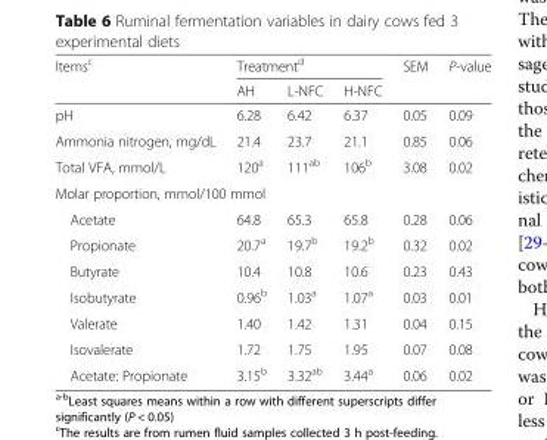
<table><thead><tr><td rowspan="2">Items<sup>c</sup></td><td colspan="3">Treatment<sup>d</sup></td><td rowspan="2">SEM</td><td rowspan="2">P-value</td></tr><tr><td>AH</td><td>L-NFC</td><td>H-NFC</td></tr></thead><tbody><tr><td>pH</td><td>6.28</td><td>6.42</td><td>6.37</td><td>0.05</td><td>0.09</td></tr><tr><td>Ammonia nitrogen, mg/dL</td><td>21.4</td><td>23.7</td><td>21.1</td><td>0.85</td><td>0.06</td></tr><tr><td>Total VFA, mmol/L</td><td>120<sup>a</sup></td><td>111<sup>ab</sup></td><td>106<sup>b</sup></td><td>3.08</td><td>0.02</td></tr><tr><td colspan="6">Molar proportion, mmol/100 mmol</td></tr><tr><td>Acetate</td><td>64.8</td><td>65.3</td><td>65.8</td><td>0.28</td><td>0.06</td></tr><tr><td>Propionate</td><td>20.7<sup>a</sup></td><td>19.7<sup>b</sup></td><td>19.2<sup>b</sup></td><td>0.32</td><td>0.02</td></tr><tr><td>Butyrate</td><td>10.4</td><td>10.8</td><td>10.6</td><td>0.23</td><td>0.43</td></tr><tr><td>Isobutyrate</td><td>0.96<sup>b</sup></td><td>1.03<sup>a</sup></td><td>1.07<sup>a</sup></td><td>0.03</td><td>0.01</td></tr><tr><td>Valerate</td><td>1.40</td><td>1.42</td><td>1.31</td><td>0.04</td><td>0.15</td></tr><tr><td>Isovalerate</td><td>1.72</td><td>1.75</td><td>1.95</td><td>0.07</td><td>0.08</td></tr><tr><td>Acetate: Propionate</td><td>3.15<sup>b</sup></td><td>3.32<sup>ab</sup></td><td>3.44<sup>a</sup></td><td>0.06</td><td>0.02</td></tr></tbody></table>